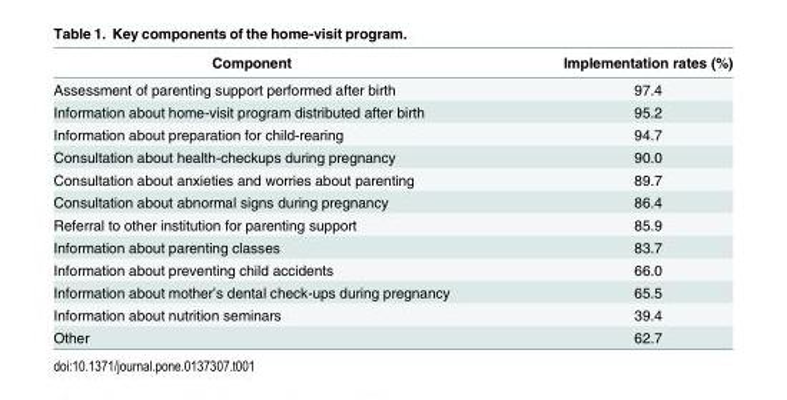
<table><thead><tr><td>Component</td><td>Implementation rates (%)</td></tr></thead><tbody><tr><td>Assessment of parenting support performed after birth</td><td>97.4</td></tr><tr><td>Information about home-visit program distributed after birth</td><td>95.2</td></tr><tr><td>Information about preparation for child-rearing</td><td>94.7</td></tr><tr><td>Consultation about health-checkups during pregnancy</td><td>90.0</td></tr><tr><td>Consultation about anxieties and worries about parenting</td><td>89.7</td></tr><tr><td>Consultation about abnormal signs during pregnancy</td><td>86.4</td></tr><tr><td>Referral to other institution for parenting support</td><td>85.9</td></tr><tr><td>Information about parenting classes</td><td>83.7</td></tr><tr><td>Information about preventing child accidents</td><td>66.0</td></tr><tr><td>Information about mother’s dental check-ups during pregnancy</td><td>65.5</td></tr><tr><td>Information about nutrition seminars</td><td>39.4</td></tr><tr><td>Other</td><td>62.7</td></tr></tbody></table>